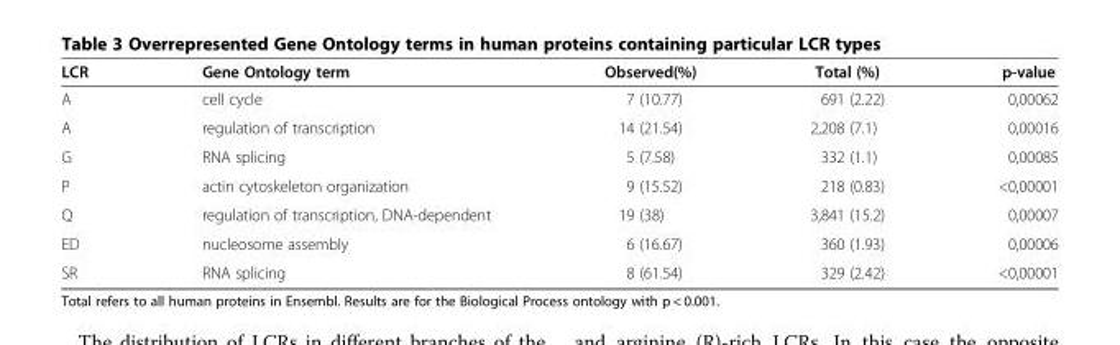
<table><thead><tr><td>LCR</td><td>Gene Ontology term</td><td>Observed(%)</td><td>Total (%)</td><td>p-value</td></tr></thead><tbody><tr><td>A</td><td>cell cycle</td><td>7 (10.77)</td><td>691 (2.22)</td><td>0,00062</td></tr><tr><td>A</td><td>regulation of transcription</td><td>14 (21.54)</td><td>2,208 (7.1)</td><td>0,00016</td></tr><tr><td>G</td><td>RNA splicing</td><td>5 (7.58)</td><td>332 (1.1)</td><td>0,00085</td></tr><tr><td>P</td><td>actin cytoskeleton organization</td><td>9 (15.52)</td><td>218 (0.83)</td><td>&lt;0,00001</td></tr><tr><td>Q</td><td>regulation of transcription, DNA-dependent</td><td>19 (38)</td><td>3,841 (15.2)</td><td>0,00007</td></tr><tr><td>ED</td><td>nucleosome assembly</td><td>6 (16.67)</td><td>360 (1.93)</td><td>0,00006</td></tr><tr><td>SR</td><td>RNA splicing</td><td>8 (61.54)</td><td>329 (2.42)</td><td>&lt;0,00001</td></tr></tbody></table>